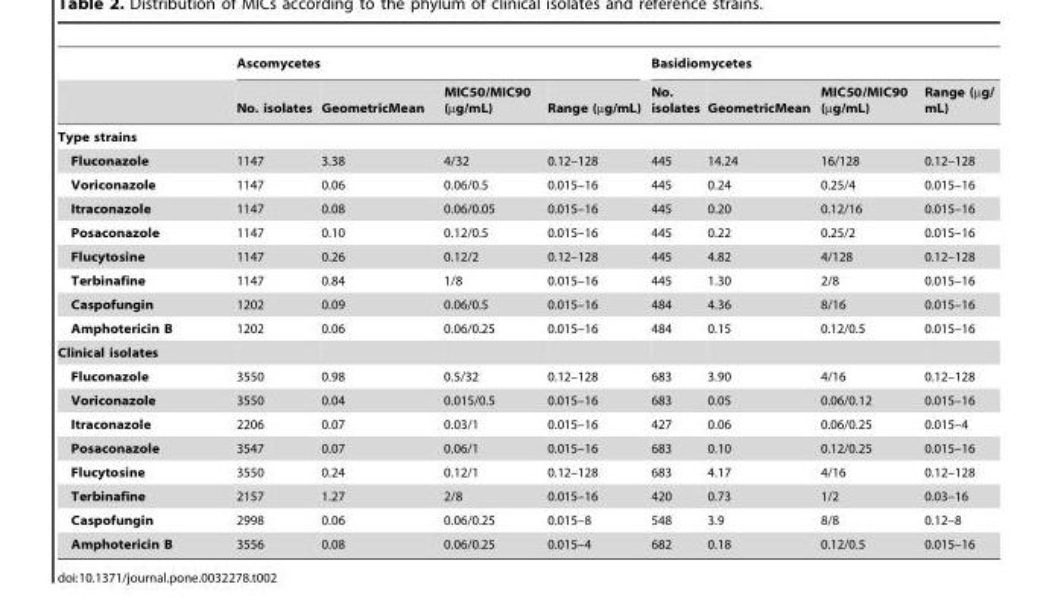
<table><thead><tr><td rowspan="2"></td><td colspan="4">Ascomycetes</td><td colspan="4">Basidiomycetes</td></tr><tr><td>No. isolates</td><td>GeometricMean</td><td>MIC50/MIC90 (µg/mL)</td><td>Range (µg/mL)</td><td>No. isolates</td><td>GeometricMean</td><td>MIC50/MIC90 (µg/mL)</td><td>Range (µg/ mL)</td></tr></thead><tbody><tr><td colspan="9">Type strains</td></tr><tr><td>Fluconazole</td><td>1147</td><td>3.38</td><td>4/32</td><td>0.12–128</td><td>445</td><td>14.24</td><td>16/128</td><td>0.12–128</td></tr><tr><td>Voriconazole</td><td>1147</td><td>0.06</td><td>0.06/0.5</td><td>0.015–16</td><td>445</td><td>0.24</td><td>0.25/4</td><td>0.015–16</td></tr><tr><td>Itraconazole</td><td>1147</td><td>0.08</td><td>0.06/0.05</td><td>0.015–16</td><td>445</td><td>0.20</td><td>0.12/16</td><td>0.015–16</td></tr><tr><td>Posaconazole</td><td>1147</td><td>0.10</td><td>0.12/0.5</td><td>0.015–16</td><td>445</td><td>0.22</td><td>0.25/2</td><td>0.015–16</td></tr><tr><td>Flucytosine</td><td>1147</td><td>0.26</td><td>0.12/2</td><td>0.12–128</td><td>445</td><td>4.82</td><td>4/128</td><td>0.12–128</td></tr><tr><td>Terbinafine</td><td>1147</td><td>0.84</td><td>1/8</td><td>0.015–16</td><td>445</td><td>1.30</td><td>2/8</td><td>0.015–16</td></tr><tr><td>Caspofungin</td><td>1202</td><td>0.09</td><td>0.06/0.5</td><td>0.015–16</td><td>484</td><td>4.36</td><td>8/16</td><td>0.015–16</td></tr><tr><td>Amphotericin B</td><td>1202</td><td>0.06</td><td>0.06/0.25</td><td>0.015–16</td><td>484</td><td>0.15</td><td>0.12/0.5</td><td>0.015–16</td></tr><tr><td colspan="9">Clinical isolates</td></tr><tr><td>Fluconazole</td><td>3550</td><td>0.98</td><td>0.5/32</td><td>0.12–128</td><td>683</td><td>3.90</td><td>4/16</td><td>0.12–128</td></tr><tr><td>Voriconazole</td><td>3550</td><td>0.04</td><td>0.015/0.5</td><td>0.015–16</td><td>683</td><td>0.05</td><td>0.06/0.12</td><td>0.015–16</td></tr><tr><td>Itraconazole</td><td>2206</td><td>0.07</td><td>0.03/1</td><td>0.015–16</td><td>427</td><td>0.06</td><td>0.06/0.25</td><td>0.015–4</td></tr><tr><td>Posaconazole</td><td>3547</td><td>0.07</td><td>0.06/1</td><td>0.015–16</td><td>683</td><td>0.10</td><td>0.12/0.25</td><td>0.015–16</td></tr><tr><td>Flucytosine</td><td>3550</td><td>0.24</td><td>0.12/1</td><td>0.12–128</td><td>683</td><td>4.17</td><td>4/16</td><td>0.12–128</td></tr><tr><td>Terbinafine</td><td>2157</td><td>1.27</td><td>2/8</td><td>0.015–16</td><td>420</td><td>0.73</td><td>1/2</td><td>0.03–16</td></tr><tr><td>Caspofungin</td><td>2998</td><td>0.06</td><td>0.06/0.25</td><td>0.015–8</td><td>548</td><td>3.9</td><td>8/8</td><td>0.12–8</td></tr><tr><td>Amphotericin B</td><td>3556</td><td>0.08</td><td>0.06/0.25</td><td>0.015–4</td><td>682</td><td>0.18</td><td>0.12/0.5</td><td>0.015–16</td></tr></tbody></table>